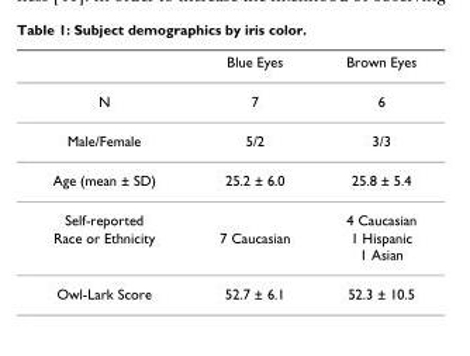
<table><thead><tr><td></td><td>Blue Eyes</td><td>Brown Eyes</td></tr></thead><tbody><tr><td>N</td><td>7</td><td>6</td></tr><tr><td>Male/Female</td><td>5/2</td><td>3/3</td></tr><tr><td>Age (mean ± SD)</td><td>25.2 ± 6.0</td><td>25.8 ± 5.4</td></tr><tr><td>Self-reported</td><td></td><td>4 Caucasian</td></tr><tr><td>Race or Ethnicity</td><td>7 Caucasian</td><td>1 Hispanic 1 Asian</td></tr><tr><td>Owl-Lark Score</td><td>52.7 ± 6.1</td><td>52.3 ± 10.5</td></tr></tbody></table>